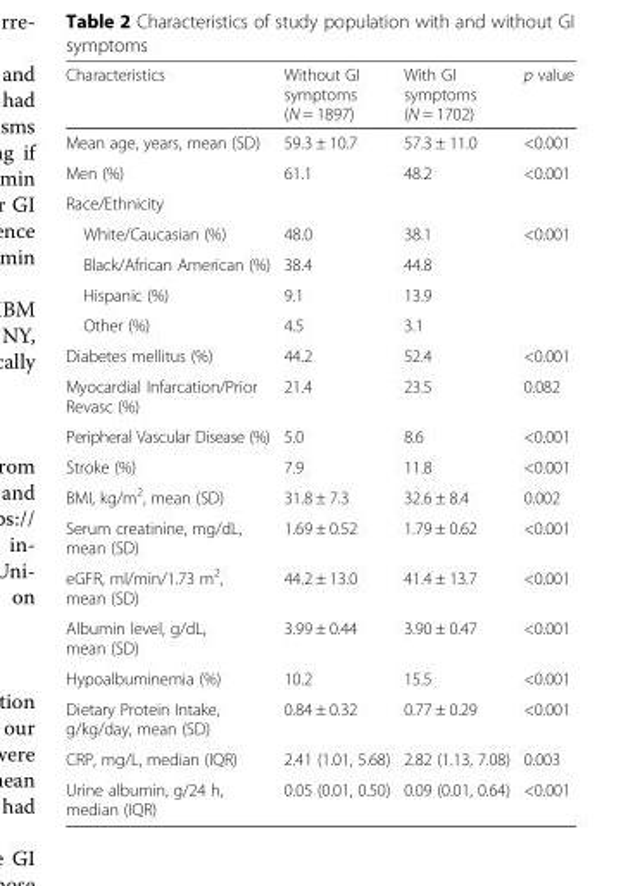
<table><thead><tr><td>Characteristics</td><td>Without GI symptoms (N = 1897)</td><td>With GI symptoms (N = 1702)</td><td>p value</td></tr></thead><tbody><tr><td>Mean age, years, mean (SD)</td><td>59.3 ± 10.7</td><td>57.3 ± 11.0</td><td>&lt;0.001</td></tr><tr><td>Men (%)</td><td>61.1</td><td>48.2</td><td>&lt;0.001</td></tr><tr><td colspan="4">Race/Ethnicity</td></tr><tr><td>White/Caucasian (%)</td><td>48.0</td><td>38.1</td><td>&lt;0.001</td></tr><tr><td>Black/African American (%)</td><td>38.4</td><td>44.8</td><td></td></tr><tr><td>Hispanic (%)</td><td>9.1</td><td>13.9</td><td></td></tr><tr><td>Other (%)</td><td>4.5</td><td>3.1</td><td></td></tr><tr><td>Diabetes mellitus (%)</td><td>44.2</td><td>52.4</td><td>&lt;0.001</td></tr><tr><td>Myocardial Infarcation/Prior Revasc (%)</td><td>21.4</td><td>23.5</td><td>0.082</td></tr><tr><td>Peripheral Vascular Disease (%)</td><td>5.0</td><td>8.6</td><td>&lt;0.001</td></tr><tr><td>Stroke (%)</td><td>7.9</td><td>11.8</td><td>&lt;0.001</td></tr><tr><td>BMI, kg/m<sup>2</sup>, mean (SD)</td><td>31.8 ± 7.3</td><td>32.6 ± 8.4</td><td>0.002</td></tr><tr><td>Serum creatinine, mg/dL, mean (SD)</td><td>1.69 ± 0.52</td><td>1.79 ± 0.62</td><td>&lt;0.001</td></tr><tr><td>eGFR, ml/min/1.73 m<sup>2</sup>, mean (SD)</td><td>44.2 ± 13.0</td><td>41.4 ± 13.7</td><td>&lt;0.001</td></tr><tr><td>Albumin level, g/dL, mean (SD)</td><td>3.99 ± 0.44</td><td>3.90 ± 0.47</td><td>&lt;0.001</td></tr><tr><td>Hypoalbuminemia (%)</td><td>10.2</td><td>15.5</td><td>&lt;0.001</td></tr><tr><td>Dietary Protein Intake, g/kg/day, mean (SD)</td><td>0.84 ± 0.32</td><td>0.77 ± 0.29</td><td>&lt;0.001</td></tr><tr><td>CRP, mg/L, median (IQR)</td><td>2.41 (1.01, 5.68)</td><td>2.82 (1.13, 7.08)</td><td>0.003</td></tr><tr><td>Urine albumin, g/24 h, median (IQR)</td><td>0.05 (0.01, 0.50)</td><td>0.09 (0.01, 0.64)</td><td>&lt;0.001</td></tr></tbody></table>